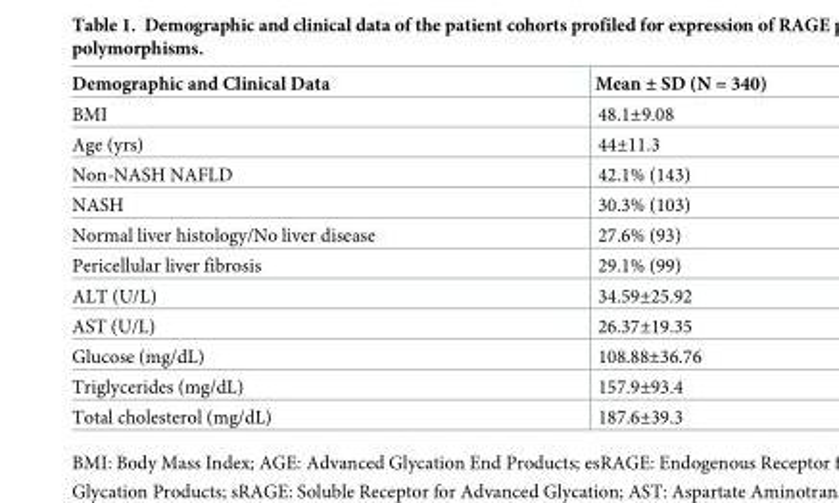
<table><thead><tr><td>Demographic and Clinical Data</td><td>Mean ± SD (N = 340)</td></tr></thead><tbody><tr><td>BMI</td><td>48.1±9.08</td></tr><tr><td>Age (yrs)</td><td>44±11.3</td></tr><tr><td>Non-NASH NAFLD</td><td>42.1% (143)</td></tr><tr><td>NASH</td><td>30.3% (103)</td></tr><tr><td>Normal liver histology/No liver disease</td><td>27.6% (93)</td></tr><tr><td>Pericellular liver fibrosis</td><td>29.1% (99)</td></tr><tr><td>ALT (U/L)</td><td>34.59±25.92</td></tr><tr><td>AST (U/L)</td><td>26.37±19.35</td></tr><tr><td>Glucose (mg/dL)</td><td>108.88±36.76</td></tr><tr><td>Triglycerides (mg/dL)</td><td>157.9±93.4</td></tr><tr><td>Total cholesterol (mg/dL)</td><td>187.6±39.3</td></tr></tbody></table>